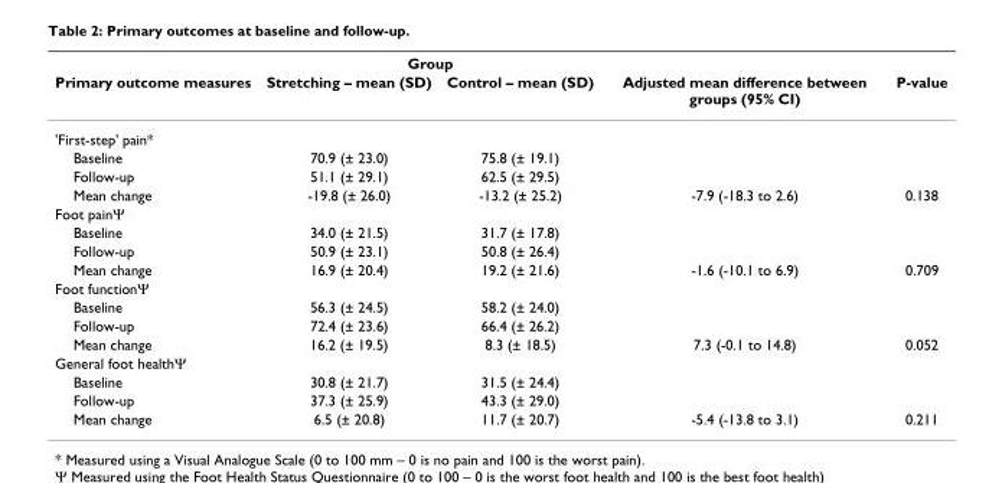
<table><thead><tr><td rowspan="2">Primary outcome measures</td><td colspan="2">Group</td><td rowspan="2">Adjusted mean difference between groups (95% CI)</td><td rowspan="2">P-value</td></tr><tr><td>Stretching – mean (SD)</td><td>Control – mean (SD)</td></tr></thead><tbody><tr><td colspan="5">&#x27;First-step&#x27; pain*</td></tr><tr><td>Baseline</td><td>70.9 (± 23.0)</td><td>75.8 (± 19.1)</td><td></td><td></td></tr><tr><td>Follow-up</td><td>51.1 (± 29.1)</td><td>62.5 (± 29.5)</td><td></td><td></td></tr><tr><td>Mean change</td><td>-19.8 (± 26.0)</td><td>-13.2 (± 25.2)</td><td>-7.9 (-18.3 to 2.6)</td><td>0.138</td></tr><tr><td colspan="5">Foot painΨ</td></tr><tr><td>Baseline</td><td>34.0 (± 21.5)</td><td>31.7 (± 17.8)</td><td></td><td></td></tr><tr><td>Follow-up</td><td>50.9 (± 23.1)</td><td>50.8 (± 26.4)</td><td></td><td></td></tr><tr><td>Mean change</td><td>16.9 (± 20.4)</td><td>19.2 (± 21.6)</td><td>-1.6 (-10.1 to 6.9)</td><td>0.709</td></tr><tr><td colspan="5">Foot functionΨ</td></tr><tr><td>Baseline</td><td>56.3 (± 24.5)</td><td>58.2 (± 24.0)</td><td></td><td></td></tr><tr><td>Follow-up</td><td>72.4 (± 23.6)</td><td>66.4 (± 26.2)</td><td></td><td></td></tr><tr><td>Mean change</td><td>16.2 (± 19.5)</td><td>8.3 (± 18.5)</td><td>7.3 (-0.1 to 14.8)</td><td>0.052</td></tr><tr><td colspan="5">General foot healthΨ</td></tr><tr><td>Baseline</td><td>30.8 (± 21.7)</td><td>31.5 (± 24.4)</td><td></td><td></td></tr><tr><td>Follow-up</td><td>37.3 (± 25.9)</td><td>43.3 (± 29.0)</td><td></td><td></td></tr><tr><td>Mean change</td><td>6.5 (± 20.8)</td><td>11.7 (± 20.7)</td><td>-5.4 (-13.8 to 3.1)</td><td>0.211</td></tr></tbody></table>